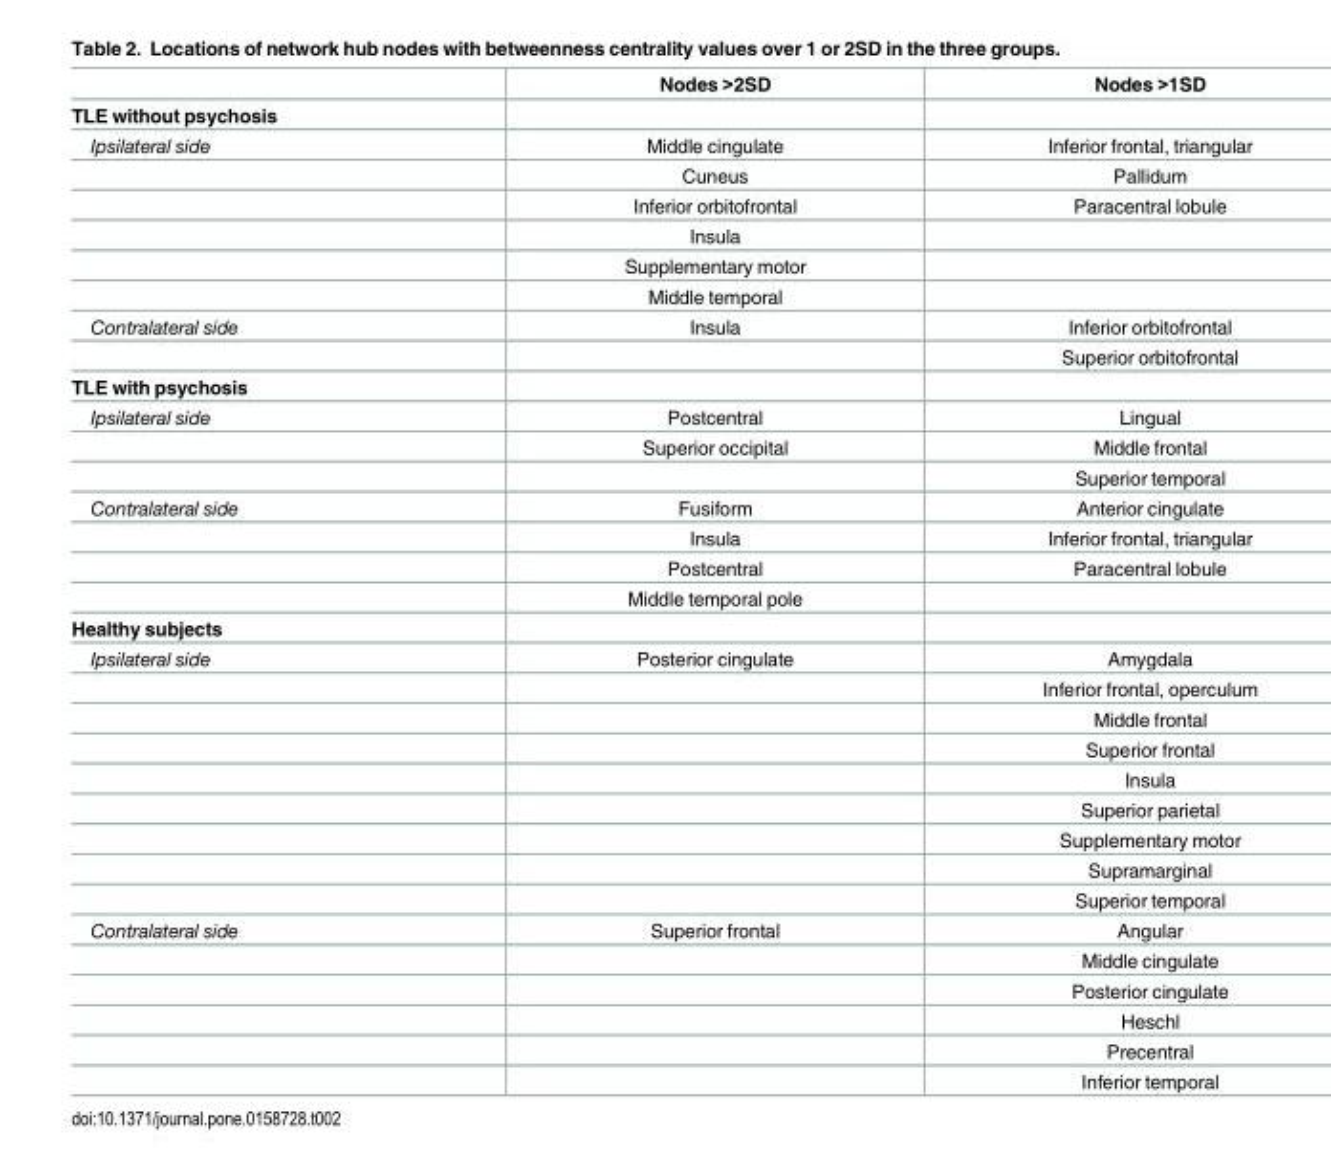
<table><thead><tr><td></td><td>Nodes &gt;2SD</td><td>Nodes &gt;1SD</td></tr></thead><tbody><tr><td colspan="3">TLE without psychosis</td></tr><tr><td rowspan="6">Ipsilateral side</td><td>Middle cingulate</td><td>Inferior frontal, triangular</td></tr><tr><td>Cuneus</td><td>Pallidum</td></tr><tr><td>Inferior orbitofrontal</td><td>Paracentral lobule</td></tr><tr><td>Insula</td><td></td></tr><tr><td>Supplementary motor</td><td></td></tr><tr><td>Middle temporal</td><td></td></tr><tr><td rowspan="2">Contralateral side</td><td>Insula</td><td>Inferior orbitofrontal</td></tr><tr><td></td><td>Superior orbitofrontal</td></tr><tr><td colspan="3">TLE with psychosis</td></tr><tr><td rowspan="3">Ipsilateral side</td><td>Postcentral</td><td>Lingual</td></tr><tr><td>Superior occipital</td><td>Middle frontal</td></tr><tr><td></td><td>Superior temporal</td></tr><tr><td rowspan="4">Contralateral side</td><td>Fusiform</td><td>Anterior cingulate</td></tr><tr><td>Insula</td><td>Inferior frontal, triangular</td></tr><tr><td>Postcentral</td><td>Paracentral lobule</td></tr><tr><td>Middle temporal pole</td><td></td></tr><tr><td colspan="3">Healthy subjects</td></tr><tr><td rowspan="9">Ipsilateral side</td><td>Posterior cingulate</td><td>Amygdala</td></tr><tr><td></td><td>Inferior frontal, operculum</td></tr><tr><td></td><td>Middle frontal</td></tr><tr><td></td><td>Superior frontal</td></tr><tr><td></td><td>Insula</td></tr><tr><td></td><td>Superior parietal</td></tr><tr><td></td><td>Supplementary motor</td></tr><tr><td></td><td>Supramarginal</td></tr><tr><td></td><td>Superior temporal</td></tr><tr><td rowspan="6">Contralateral side</td><td>Superior frontal</td><td>Angular</td></tr><tr><td></td><td>Middle cingulate</td></tr><tr><td></td><td>Posterior cingulate</td></tr><tr><td></td><td>Heschl</td></tr><tr><td></td><td>Precentral</td></tr><tr><td></td><td>Inferior temporal</td></tr></tbody></table>